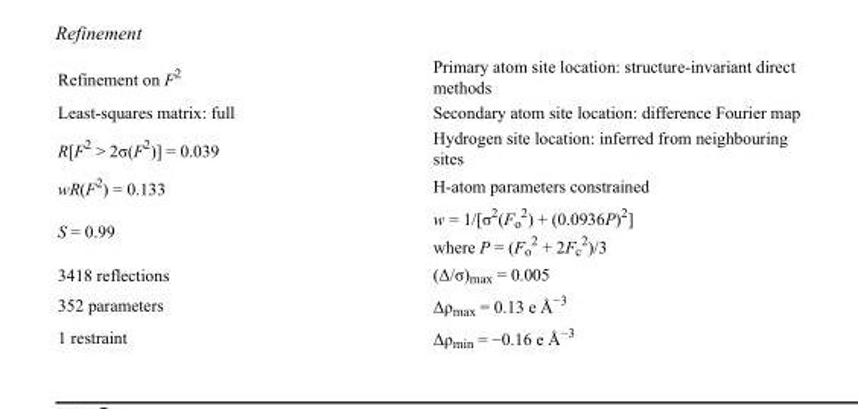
<table><tbody><tr><td>Refinement on F<sup>2</sup></td><td>Primary atom site location: structure-invariant direct methods</td></tr><tr><td>Least-squares matrix: full</td><td>Secondary atom site location: difference Fourier map</td></tr><tr><td>R[F<sup>2</sup> &gt; 2σ(F<sup>2</sup>)] = 0.039</td><td>Hydrogen site location: inferred from neighbouring sites</td></tr><tr><td>wR(F<sup>2</sup>) = 0.133</td><td>H-atom parameters constrained</td></tr><tr><td>S = 0.99</td><td>w = 1/[σ<sup>2</sup>(F<sub>o</sub> <sup>2</sup>) + (0.0936P)<sup>2</sup>] where P = (F<sub>o</sub> <sup>2</sup> + 2F<sub>c</sub> <sup>2</sup>)/3</td></tr><tr><td>3418 reflections</td><td>(Δ/σ)<sub>max</sub> = 0.005</td></tr><tr><td>352 parameters</td><td>Δρ<sub>max</sub> = 0.13 e Å<sup>−3</sup></td></tr><tr><td>1 restraint</td><td>Δρ<sub>min</sub> = −0.16 e Å<sup>−3</sup></td></tr></tbody></table>